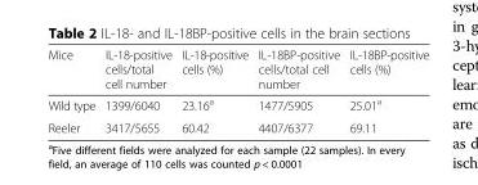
<table><thead><tr><td>Mice</td><td>IL-18-positive cells/total cell number</td><td>IL-18-positive cells (%)</td><td>IL-18BP-positive cells/total cell number</td><td>IL-18BP-positive cells (%)</td></tr></thead><tbody><tr><td>Wild type</td><td>1399/6040</td><td>23.16<sup>a</sup></td><td>1477/5905</td><td>25.01<sup>a</sup></td></tr><tr><td>Reeler</td><td>3417/5655</td><td>60.42</td><td>4407/6377</td><td>69.11</td></tr></tbody></table>